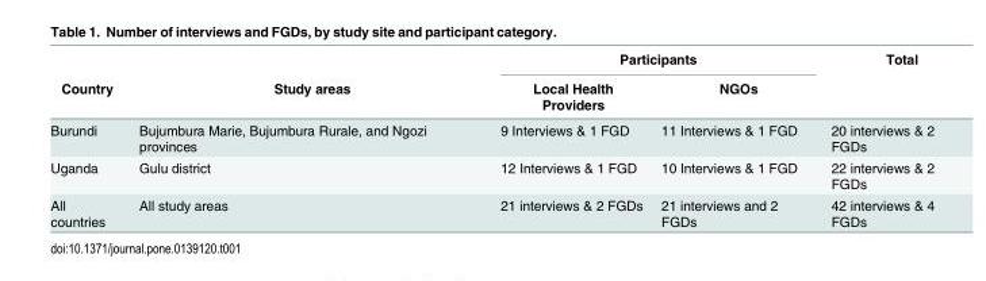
<table><thead><tr><td rowspan="2">Country</td><td rowspan="2">Study areas</td><td colspan="2">Participants</td><td rowspan="2">Total</td></tr><tr><td>Local Health Providers</td><td>NGOs</td></tr></thead><tbody><tr><td>Burundi</td><td>Bujumbura Marie, Bujumbura Rurale, and Ngozi provinces</td><td>9 Interviews &amp; 1 FGD</td><td>11 Interviews &amp; 1 FGD</td><td>20 interviews &amp; 2 FGDs</td></tr><tr><td>Uganda</td><td>Gulu district</td><td>12 Interviews &amp; 1 FGD</td><td>10 Interviews &amp; 1 FGD</td><td>22 interviews &amp; 2 FGDs</td></tr><tr><td>All countries</td><td>All study areas</td><td>21 interviews &amp; 2 FGDs</td><td>21 interviews and 2 FGDs</td><td>42 interviews &amp; 4 FGDs</td></tr></tbody></table>